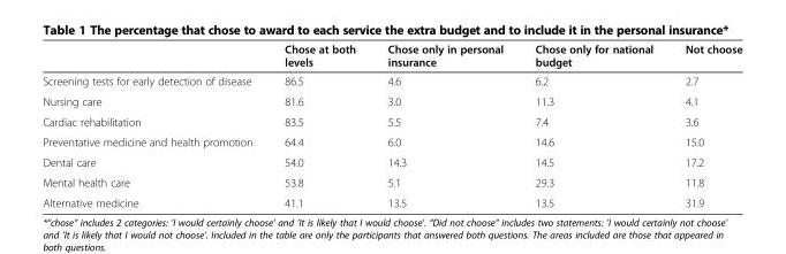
<table><thead><tr><td></td><td>Chose at both levels</td><td>Chose only in personal insurance</td><td>Chose only for national budget</td><td>Not choose</td></tr></thead><tbody><tr><td>Screening tests for early detection of disease</td><td>86.5</td><td>4.6</td><td>6.2</td><td>2.7</td></tr><tr><td>Nursing care</td><td>81.6</td><td>3.0</td><td>11.3</td><td>4.1</td></tr><tr><td>Cardiac rehabilitation</td><td>83.5</td><td>5.5</td><td>7.4</td><td>3.6</td></tr><tr><td>Preventative medicine and health promotion</td><td>64.4</td><td>6.0</td><td>14.6</td><td>15.0</td></tr><tr><td>Dental care</td><td>54.0</td><td>14.3</td><td>14.5</td><td>17.2</td></tr><tr><td>Mental health care</td><td>53.8</td><td>5.1</td><td>29.3</td><td>11.8</td></tr><tr><td>Alternative medicine</td><td>41.1</td><td>13.5</td><td>13.5</td><td>31.9</td></tr></tbody></table>